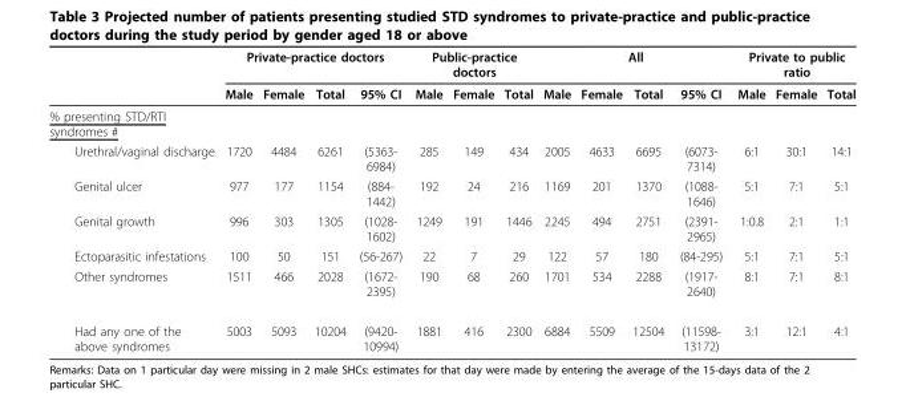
<table><thead><tr><td rowspan="2"></td><td colspan="4">Private-practice doctors</td><td colspan="3">Public-practice doctors</td><td colspan="4">All</td><td colspan="3">Private to public ratio</td></tr><tr><td>Male</td><td>Female</td><td>Total</td><td>95% CI</td><td>Male</td><td>Female</td><td>Total</td><td>Male</td><td>Female</td><td>Total</td><td>95% CI</td><td>Male</td><td>Female</td><td>Total</td></tr></thead><tbody><tr><td colspan="15">% presenting STD/RTI syndromes #</td></tr><tr><td>Urethral/vaginal discharge</td><td>1720</td><td>4484</td><td>6261</td><td>(5363- 6984)</td><td>285</td><td>149</td><td>434</td><td>2005</td><td>4633</td><td>6695</td><td>(6073- 7314)</td><td>6:1</td><td>30:1</td><td>14:1</td></tr><tr><td>Genital ulcer</td><td>977</td><td>177</td><td>1154</td><td>(884- 1442)</td><td>192</td><td>24</td><td>216</td><td>1169</td><td>201</td><td>1370</td><td>(1088- 1646)</td><td>5:1</td><td>7:1</td><td>5:1</td></tr><tr><td>Genital growth</td><td>996</td><td>303</td><td>1305</td><td>(1028- 1602)</td><td>1249</td><td>191</td><td>1446</td><td>2245</td><td>494</td><td>2751</td><td>(2391- 2965)</td><td>1:0.8</td><td>2:1</td><td>1:1</td></tr><tr><td>Ectoparasitic infestations</td><td>100</td><td>50</td><td>151</td><td>(56-267)</td><td>22</td><td>7</td><td>29</td><td>122</td><td>57</td><td>180</td><td>(84-295)</td><td>5:1</td><td>7:1</td><td>5:1</td></tr><tr><td>Other syndromes</td><td>1511</td><td>466</td><td>2028</td><td>(1672- 2395)</td><td>190</td><td>68</td><td>260</td><td>1701</td><td>534</td><td>2288</td><td>(1917- 2640)</td><td>8:1</td><td>7:1</td><td>8:1</td></tr><tr><td>Had any one of the above syndromes</td><td>5003</td><td>5093</td><td>10204</td><td>(9420- 10994)</td><td>1881</td><td>416</td><td>2300</td><td>6884</td><td>5509</td><td>12504</td><td>(11598- 13172)</td><td>3:1</td><td>12:1</td><td>4:1</td></tr></tbody></table>